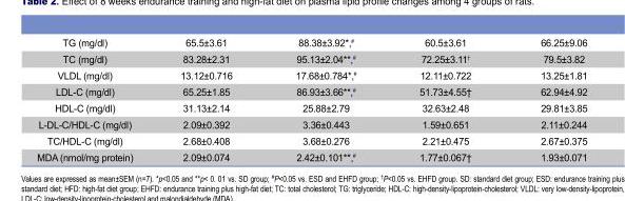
<table><tbody><tr><td>TG (mg/dl)</td><td>65.5±3.61</td><td>88.38±3.92*,<sup>#</sup></td><td>60.5±3.61</td><td>66.25±9.06</td></tr><tr><td>TC (mg/dl)</td><td>83.28±2.31</td><td>95.13±2.04**,<sup>#</sup></td><td>72.25±3.11<sup>†</sup></td><td>79.5±3.82</td></tr><tr><td>VLDL (mg/dl)</td><td>13.12±0.716</td><td>17.68±0.784*,<sup>#</sup></td><td>12.11±0.722</td><td>13.25±1.81</td></tr><tr><td>LDL-C (mg/dl)</td><td>65.25±1.85</td><td>86.93±3.66**,<sup>#</sup></td><td>51.73±4.55<sup>†</sup></td><td>62.94±4.92</td></tr><tr><td>HDL-C (mg/dl)</td><td>31.13±2.14</td><td>25.88±2.79</td><td>32.63±2.48</td><td>29.81±3.85</td></tr><tr><td>L-DL-C/HDL-C (mg/dl)</td><td>2.09±0.392</td><td>3.36±0.443</td><td>1.59±0.651</td><td>2.11±0.244</td></tr><tr><td>TC/HDL-C (mg/dl)</td><td>2.68±0.408</td><td>3.68±0.276</td><td>2.21±0.475</td><td>2.67±0.375</td></tr><tr><td>MDA (nmol/mg protein)</td><td>2.09±0.074</td><td>2.42±0.101**,<sup>#</sup></td><td>1.77±0.067<sup>†</sup></td><td>1.93±0.071</td></tr></tbody></table>